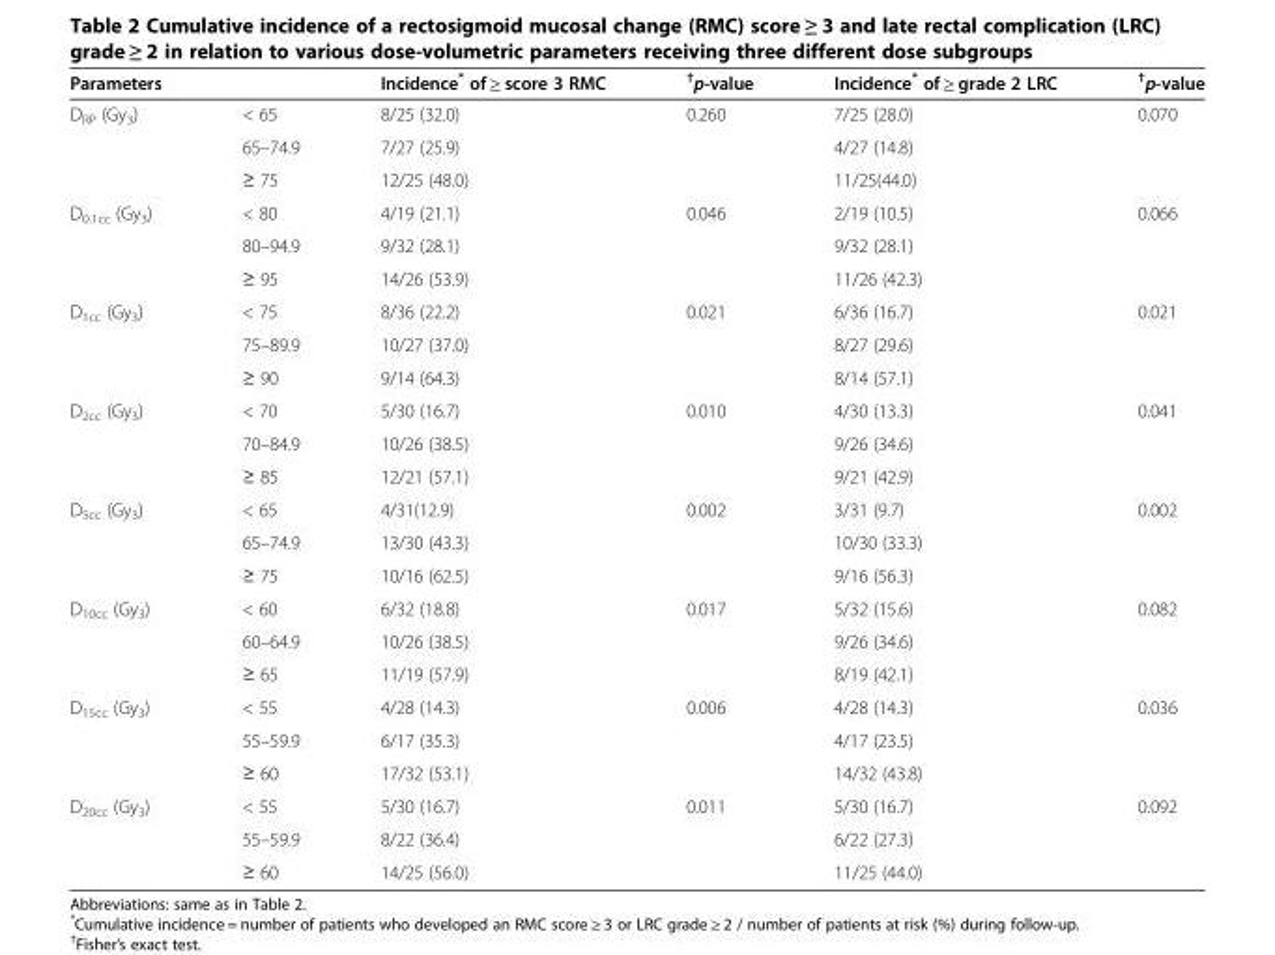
<table><thead><tr><td>Parameters</td><td></td><td>Incidence* of ≥ score 3 RMC</td><td><sup>†</sup>p-value</td><td>Incidence* of ≥ grade 2 LRC</td><td><sup>†</sup>p-value</td></tr></thead><tbody><tr><td rowspan="3">D<sub>RP</sub> (Gy<sub>3</sub>)</td><td>&lt; 65</td><td>8/25 (32.0)</td><td>0.260</td><td>7/25 (28.0)</td><td>0.070</td></tr><tr><td>65–74.9</td><td>7/27 (25.9)</td><td></td><td>4/27 (14.8)</td><td></td></tr><tr><td>≥ 75</td><td>12/25 (48.0)</td><td></td><td>11/25(44.0)</td><td></td></tr><tr><td rowspan="3">D<sub>0.1cc</sub> (Gy<sub>3</sub>)</td><td>&lt; 80</td><td>4/19 (21.1)</td><td>0.046</td><td>2/19 (10.5)</td><td>0.066</td></tr><tr><td>80–94.9</td><td>9/32 (28.1)</td><td></td><td>9/32 (28.1)</td><td></td></tr><tr><td>≥ 95</td><td>14/26 (53.9)</td><td></td><td>11/26 (42.3)</td><td></td></tr><tr><td rowspan="3">D<sub>1cc</sub> (Gy<sub>3</sub>)</td><td>&lt; 75</td><td>8/36 (22.2)</td><td>0.021</td><td>6/36 (16.7)</td><td>0.021</td></tr><tr><td>75–89.9</td><td>10/27 (37.0)</td><td></td><td>8/27 (29.6)</td><td></td></tr><tr><td>≥ 90</td><td>9/14 (64.3)</td><td></td><td>8/14 (57.1)</td><td></td></tr><tr><td rowspan="3">D<sub>2cc</sub> (Gy<sub>3</sub>)</td><td>&lt; 70</td><td>5/30 (16.7)</td><td>0.010</td><td>4/30 (13.3)</td><td>0.041</td></tr><tr><td>70–84.9</td><td>10/26 (38.5)</td><td></td><td>9/26 (34.6)</td><td></td></tr><tr><td>≥ 85</td><td>12/21 (57.1)</td><td></td><td>9/21 (42.9)</td><td></td></tr><tr><td rowspan="3">D<sub>5cc</sub> (Gy<sub>3</sub>)</td><td>&lt; 65</td><td>4/31(12.9)</td><td>0.002</td><td>3/31 (9.7)</td><td>0.002</td></tr><tr><td>65–74.9</td><td>13/30 (43.3)</td><td></td><td>10/30 (33.3)</td><td></td></tr><tr><td>≥ 75</td><td>10/16 (62.5)</td><td></td><td>9/16 (56.3)</td><td></td></tr><tr><td rowspan="3">D<sub>10cc</sub> (Gy<sub>3</sub>)</td><td>&lt; 60</td><td>6/32 (18.8)</td><td>0.017</td><td>5/32 (15.6)</td><td>0.082</td></tr><tr><td>60–64.9</td><td>10/26 (38.5)</td><td></td><td>9/26 (34.6)</td><td></td></tr><tr><td>≥ 65</td><td>11/19 (57.9)</td><td></td><td>8/19 (42.1)</td><td></td></tr><tr><td rowspan="3">D<sub>15cc</sub> (Gy<sub>3</sub>)</td><td>&lt; 55</td><td>4/28 (14.3)</td><td>0.006</td><td>4/28 (14.3)</td><td>0.036</td></tr><tr><td>55–59.9</td><td>6/17 (35.3)</td><td></td><td>4/17 (23.5)</td><td></td></tr><tr><td>≥ 60</td><td>17/32 (53.1)</td><td></td><td>14/32 (43.8)</td><td></td></tr><tr><td rowspan="3">D<sub>20cc</sub> (Gy<sub>3</sub>)</td><td>&lt; 55</td><td>5/30 (16.7)</td><td>0.011</td><td>5/30 (16.7)</td><td>0.092</td></tr><tr><td>55–59.9</td><td>8/22 (36.4)</td><td></td><td>6/22 (27.3)</td><td></td></tr><tr><td>≥ 60</td><td>14/25 (56.0)</td><td></td><td>11/25 (44.0)</td><td></td></tr></tbody></table>